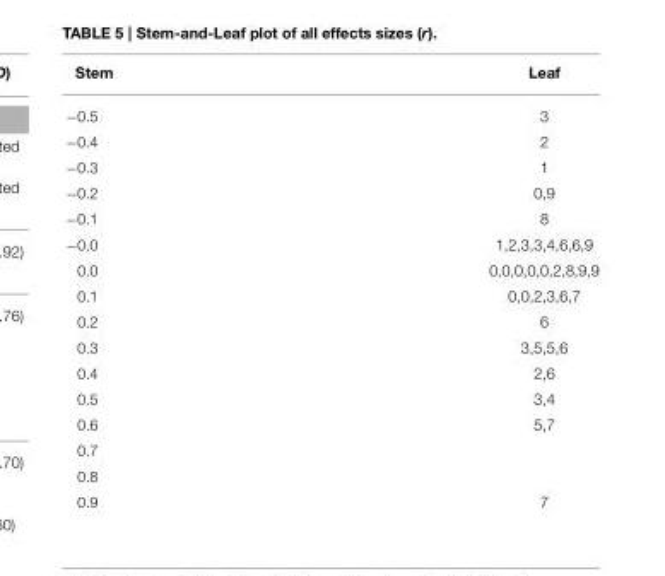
<table><thead><tr><td>Stem</td><td>Leaf</td></tr></thead><tbody><tr><td>−0.5</td><td>3</td></tr><tr><td>−0.4</td><td>2</td></tr><tr><td>−0.3</td><td>1</td></tr><tr><td>−0.2</td><td>0,9</td></tr><tr><td>−0.1</td><td>8</td></tr><tr><td>−0.0</td><td>1,2,3,3,4,6,6,9</td></tr><tr><td>0.0</td><td>0,0,0,0,0,2,8,9,9</td></tr><tr><td>0.1</td><td>0,0,2,3,6,7</td></tr><tr><td>0.2</td><td>6</td></tr><tr><td>0.3</td><td>3,5,5,6</td></tr><tr><td>0.4</td><td>2,6</td></tr><tr><td>0.5</td><td>3,4</td></tr><tr><td>0.6</td><td>5,7</td></tr><tr><td colspan="2">0.7</td></tr><tr><td colspan="2">0.8</td></tr><tr><td>0.9</td><td>7</td></tr></tbody></table>